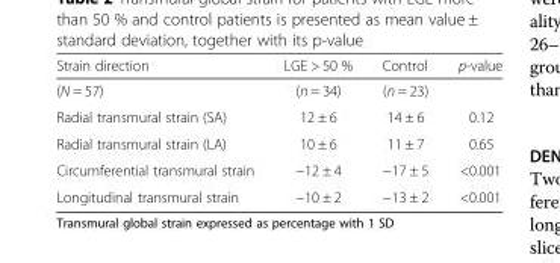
<table><thead><tr><td>Strain direction</td><td>LGE &gt; 50 %</td><td>Control</td><td>p-value</td></tr></thead><tbody><tr><td>(N = 57)</td><td>(n = 34)</td><td>(n = 23)</td><td></td></tr><tr><td>Radial transmural strain (SA)</td><td>12 ± 6</td><td>14 ± 6</td><td>0.12</td></tr><tr><td>Radial transmural strain (LA)</td><td>10 ± 6</td><td>11 ± 7</td><td>0.65</td></tr><tr><td>Circumferential transmural strain</td><td>−12 ± 4</td><td>−17 ± 5</td><td>&lt;0.001</td></tr><tr><td>Longitudinal transmural strain</td><td>−10 ± 2</td><td>−13 ± 2</td><td>&lt;0.001</td></tr></tbody></table>